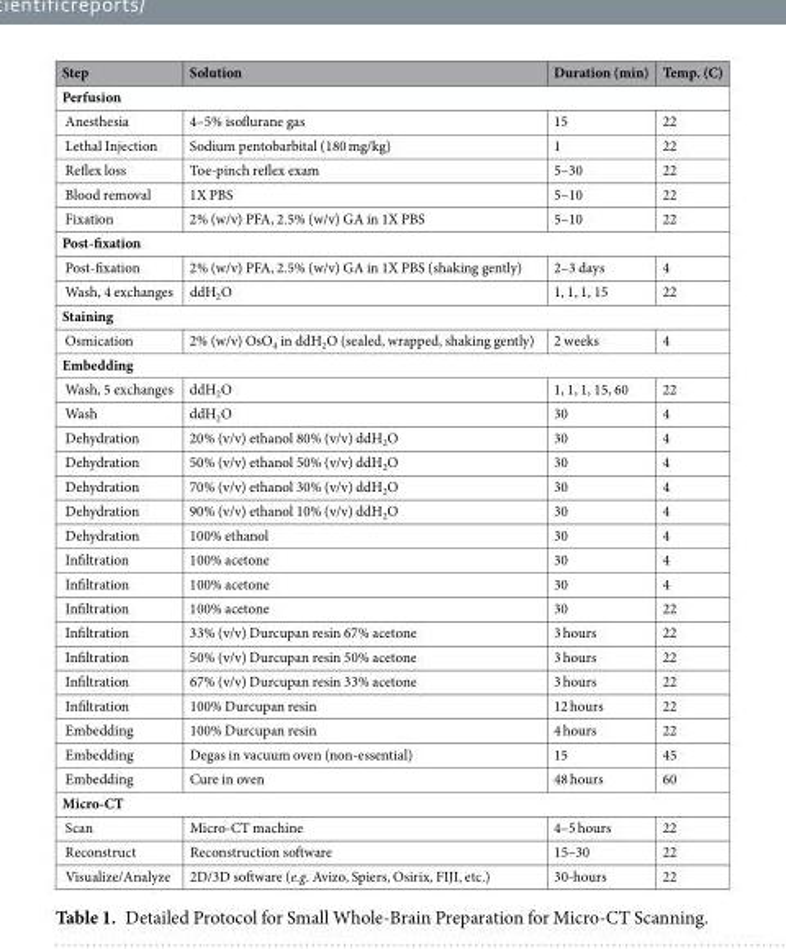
<table><thead><tr><td>Step</td><td>Solution</td><td>Duration (min)</td><td>Temp. (C)</td></tr></thead><tbody><tr><td colspan="4">Perfusion</td></tr><tr><td>Anesthesia</td><td>4–5% isoflurane gas</td><td>15</td><td>22</td></tr><tr><td>Lethal Injection</td><td>Sodium pentobarbital (180 mg/kg)</td><td>1</td><td>22</td></tr><tr><td>Reflex loss</td><td>Toe-pinch reflex exam</td><td>5–30</td><td>22</td></tr><tr><td>Blood removal</td><td>1X PBS</td><td>5–10</td><td>22</td></tr><tr><td>Fixation</td><td>2% (w/v) PFA, 2.5% (w/v) GA in 1X PBS</td><td>5–10</td><td>22</td></tr><tr><td colspan="4">Post-fixation</td></tr><tr><td>Post-fixation</td><td>2% (w/v) PFA, 2.5% (w/v) GA in 1X PBS (shaking gently)</td><td>2–3 days</td><td>4</td></tr><tr><td>Wash, 4 exchanges</td><td>ddH<sub>2</sub>O</td><td>1, 1, 1, 15</td><td>22</td></tr><tr><td colspan="4">Staining</td></tr><tr><td>Osmication</td><td>2% (w/v) OsO<sub>4</sub> in ddH<sub>2</sub>O (sealed, wrapped, shaking gently)</td><td>2 weeks</td><td>4</td></tr><tr><td colspan="4">Embedding</td></tr><tr><td>Wash, 5 exchanges</td><td>ddH<sub>2</sub>O</td><td>1, 1, 1, 15, 60</td><td>22</td></tr><tr><td>Wash</td><td>ddH<sub>2</sub>O</td><td>30</td><td>4</td></tr><tr><td>Dehydration</td><td>20% (v/v) ethanol 80% (v/v) ddH<sub>2</sub>O</td><td>30</td><td>4</td></tr><tr><td>Dehydration</td><td>50% (v/v) ethanol 50% (v/v) ddH<sub>2</sub>O</td><td>30</td><td>4</td></tr><tr><td>Dehydration</td><td>70% (v/v) ethanol 30% (v/v) ddH<sub>2</sub>O</td><td>30</td><td>4</td></tr><tr><td>Dehydration</td><td>90% (v/v) ethanol 10% (v/v) ddH<sub>2</sub>O</td><td>30</td><td>4</td></tr><tr><td>Dehydration</td><td>100% ethanol</td><td>30</td><td>4</td></tr><tr><td>Infiltration</td><td>100% acetone</td><td>30</td><td>4</td></tr><tr><td>Infiltration</td><td>100% acetone</td><td>30</td><td>4</td></tr><tr><td>Infiltration</td><td>100% acetone</td><td>30</td><td>22</td></tr><tr><td>Infiltration</td><td>33% (v/v) Durcupan resin 67% acetone</td><td>3 hours</td><td>22</td></tr><tr><td>Infiltration</td><td>50% (v/v) Durcupan resin 50% acetone</td><td>3 hours</td><td>22</td></tr><tr><td>Infiltration</td><td>67% (v/v) Durcupan resin 33% acetone</td><td>3 hours</td><td>22</td></tr><tr><td>Infiltration</td><td>100% Durcupan resin</td><td>12 hours</td><td>22</td></tr><tr><td>Embedding</td><td>100% Durcupan resin</td><td>4 hours</td><td>22</td></tr><tr><td>Embedding</td><td>Degas in vacuum oven (non-essential)</td><td>15</td><td>45</td></tr><tr><td>Embedding</td><td>Cure in oven</td><td>48 hours</td><td>60</td></tr><tr><td colspan="4">Micro-CT</td></tr><tr><td>Scan</td><td>Micro-CT machine</td><td>4–5 hours</td><td>22</td></tr><tr><td>Reconstruct</td><td>Reconstruction software</td><td>15–30</td><td>22</td></tr><tr><td>Visualize/Analyze</td><td>2D/3D software (e.g. Avizo, Spiers, Osirix, FIJI, etc.)</td><td>30-hours</td><td>22</td></tr></tbody></table>